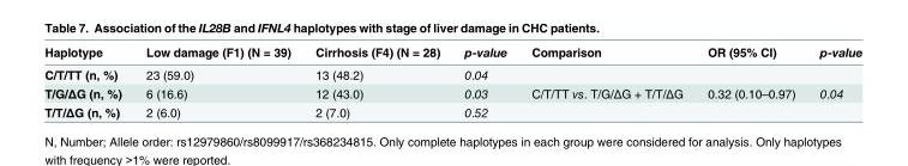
<table><thead><tr><td>Haplotype</td><td>Low damage (F1) (N = 39)</td><td>Cirrhosis (F4) (N = 28)</td><td>p-value</td><td>Comparison</td><td>OR (95% CI)</td><td>p-value</td></tr></thead><tbody><tr><td>C/T/TT (n, %)</td><td>23 (59.0)</td><td>13 (48.2)</td><td>0.04</td><td></td><td></td><td></td></tr><tr><td>T/G/ΔG (n, %)</td><td>6 (16.6)</td><td>12 (43.0)</td><td>0.03</td><td>C/T/TT vs. T/G/ΔG + T/T/ΔG</td><td>0.32 (0.10–0.97)</td><td>0.04</td></tr><tr><td>T/T/ΔG (n, %)</td><td>2 (6.0)</td><td>2 (7.0)</td><td>0.52</td><td></td><td></td><td></td></tr></tbody></table>